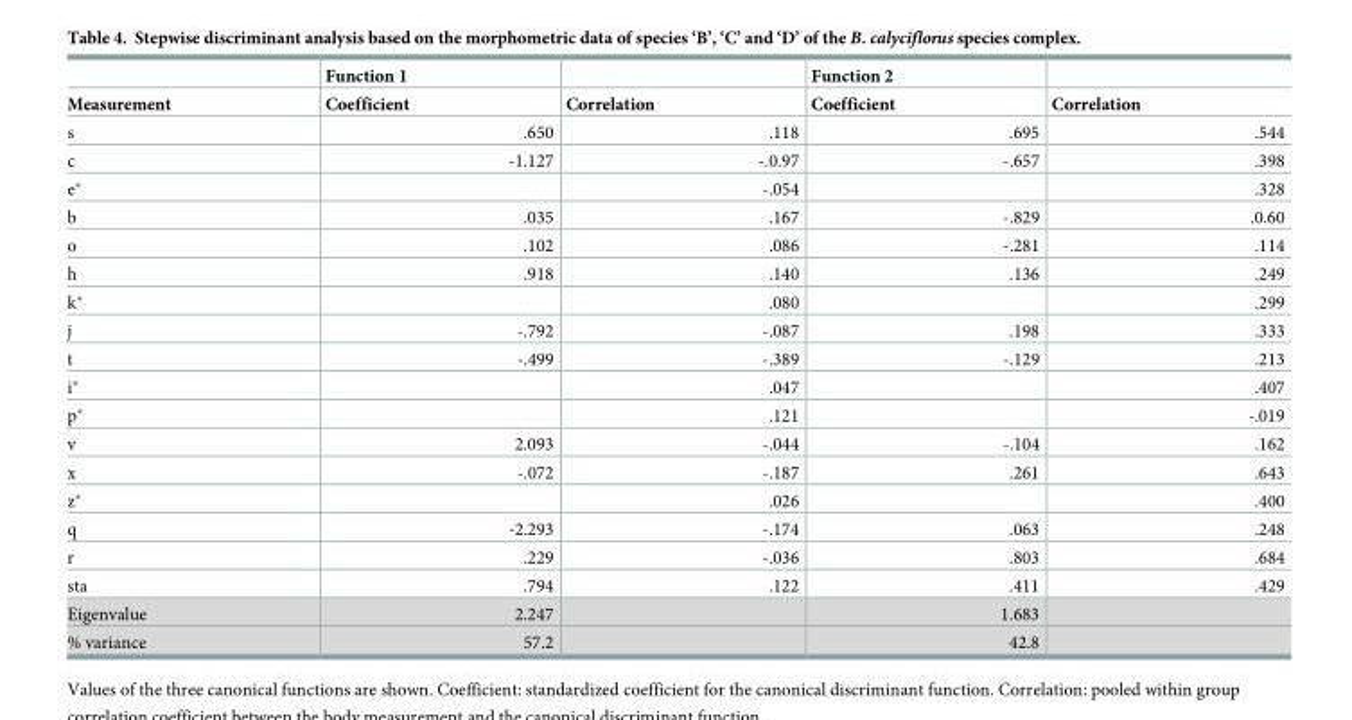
<table><thead><tr><td rowspan="2">Measurement</td><td rowspan="2">Function 1 Coefficient</td><td rowspan="2">Correlation</td><td rowspan="2">Function 2 Coefficient</td><td rowspan="2">Correlation</td></tr><tr></tr></thead><tbody><tr><td>s</td><td>.650</td><td>.118</td><td>.695</td><td>.544</td></tr><tr><td>c</td><td>-1.127</td><td>-.0.97</td><td>-.657</td><td>.398</td></tr><tr><td>e*</td><td></td><td>-.054</td><td></td><td>.328</td></tr><tr><td>b</td><td>.035</td><td>.167</td><td>-.829</td><td>.0.60</td></tr><tr><td>o</td><td>.102</td><td>.086</td><td>-.281</td><td>.114</td></tr><tr><td>h</td><td>.918</td><td>.140</td><td>.136</td><td>.249</td></tr><tr><td>k*</td><td></td><td>.080</td><td></td><td>.299</td></tr><tr><td>j</td><td>-.792</td><td>-.087</td><td>.198</td><td>.333</td></tr><tr><td>t</td><td>-.499</td><td>-.389</td><td>-.129</td><td>.213</td></tr><tr><td>i*</td><td></td><td>.047</td><td></td><td>.407</td></tr><tr><td>p*</td><td></td><td>.121</td><td></td><td>-.019</td></tr><tr><td>v</td><td>2.093</td><td>-.044</td><td>-.104</td><td>.162</td></tr><tr><td>x</td><td>-.072</td><td>-.187</td><td>.261</td><td>.643</td></tr><tr><td>z*</td><td></td><td>.026</td><td></td><td>.400</td></tr><tr><td>q</td><td>-2.293</td><td>-.174</td><td>.063</td><td>.248</td></tr><tr><td>r</td><td>.229</td><td>-.036</td><td>.803</td><td>.684</td></tr><tr><td>sta</td><td>.794</td><td>.122</td><td>.411</td><td>.429</td></tr><tr><td>Eigenvalue</td><td>2.247</td><td></td><td>1.683</td><td></td></tr><tr><td>% variance</td><td>57.2</td><td></td><td>42.8</td><td></td></tr></tbody></table>